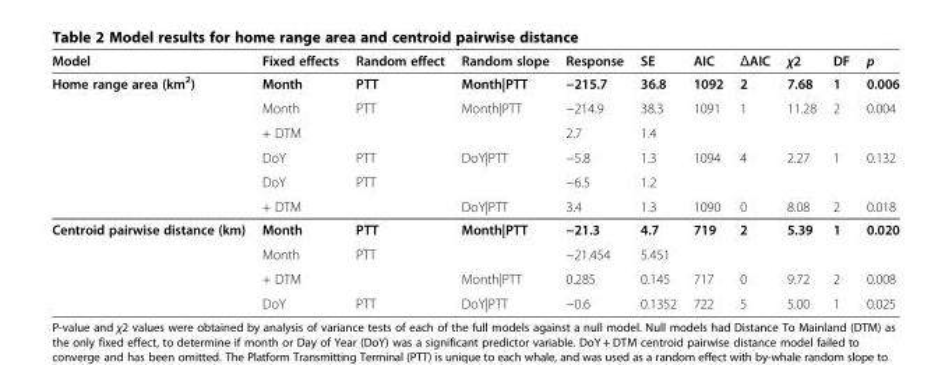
<table><thead><tr><td>Model</td><td>Fixed effects</td><td>Random effect</td><td>Random slope</td><td>Response</td><td>SE</td><td>AIC</td><td>ΔAIC</td><td>χ2</td><td>DF</td><td>p</td></tr></thead><tbody><tr><td rowspan="6">Home range area (km<sup>2</sup>)</td><td>Month</td><td>PTT</td><td>Month|PTT</td><td>−215.7</td><td>36.8</td><td>1092</td><td>2</td><td>7.68</td><td>1</td><td>0.006</td></tr><tr><td>Month</td><td>PTT</td><td>Month|PTT</td><td>−214.9</td><td>38.3</td><td>1091</td><td>1</td><td>11.28</td><td>2</td><td>0.004</td></tr><tr><td>+ DTM</td><td></td><td></td><td>2.7</td><td>1.4</td><td></td><td></td><td></td><td></td><td></td></tr><tr><td>DoY</td><td>PTT</td><td>DoY|PTT</td><td>−5.8</td><td>1.3</td><td>1094</td><td>4</td><td>2.27</td><td>1</td><td>0.132</td></tr><tr><td>DoY</td><td>PTT</td><td></td><td>−6.5</td><td>1.2</td><td></td><td></td><td></td><td></td><td></td></tr><tr><td>+ DTM</td><td></td><td>DoY|PTT</td><td>3.4</td><td>1.3</td><td>1090</td><td>0</td><td>8.08</td><td>2</td><td>0.018</td></tr><tr><td rowspan="4">Centroid pairwise distance (km)</td><td>Month</td><td>PTT</td><td>Month|PTT</td><td>−21.3</td><td>4.7</td><td>719</td><td>2</td><td>5.39</td><td>1</td><td>0.020</td></tr><tr><td>Month</td><td>PTT</td><td></td><td>−21.454</td><td>5.451</td><td></td><td></td><td></td><td></td><td></td></tr><tr><td>+ DTM</td><td></td><td>Month|PTT</td><td>0.285</td><td>0.145</td><td>717</td><td>0</td><td>9.72</td><td>2</td><td>0.008</td></tr><tr><td>DoY</td><td>PTT</td><td>DoY|PTT</td><td>−0.6</td><td>0.1352</td><td>722</td><td>5</td><td>5.00</td><td>1</td><td>0.025</td></tr></tbody></table>